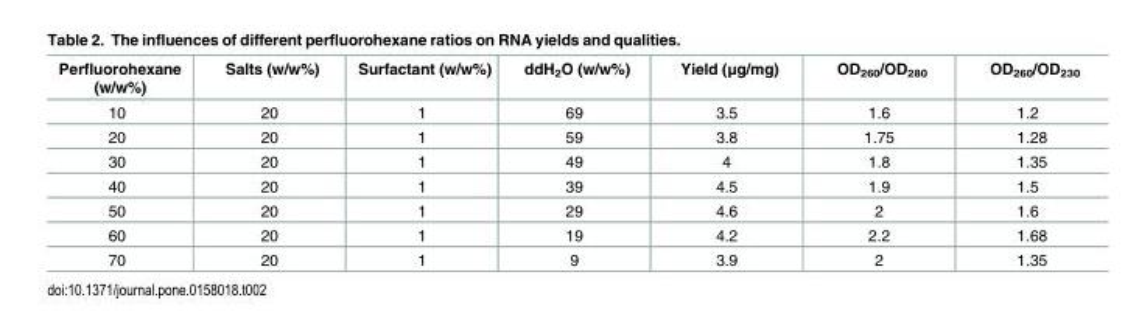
<table><thead><tr><td>Perfluorohexane (w/w%)</td><td>Salts (w/w%)</td><td>Surfactant (w/w%)</td><td>ddH<sub>2</sub>O (w/w%)</td><td>Yield (μg/mg)</td><td>OD<sub>260</sub>/OD<sub>280</sub></td><td>OD<sub>260</sub>/OD<sub>230</sub></td></tr></thead><tbody><tr><td>10</td><td>20</td><td>1</td><td>69</td><td>3.5</td><td>1.6</td><td>1.2</td></tr><tr><td>20</td><td>20</td><td>1</td><td>59</td><td>3.8</td><td>1.75</td><td>1.28</td></tr><tr><td>30</td><td>20</td><td>1</td><td>49</td><td>4</td><td>1.8</td><td>1.35</td></tr><tr><td>40</td><td>20</td><td>1</td><td>39</td><td>4.5</td><td>1.9</td><td>1.5</td></tr><tr><td>50</td><td>20</td><td>1</td><td>29</td><td>4.6</td><td>2</td><td>1.6</td></tr><tr><td>60</td><td>20</td><td>1</td><td>19</td><td>4.2</td><td>2.2</td><td>1.68</td></tr><tr><td>70</td><td>20</td><td>1</td><td>9</td><td>3.9</td><td>2</td><td>1.35</td></tr></tbody></table>